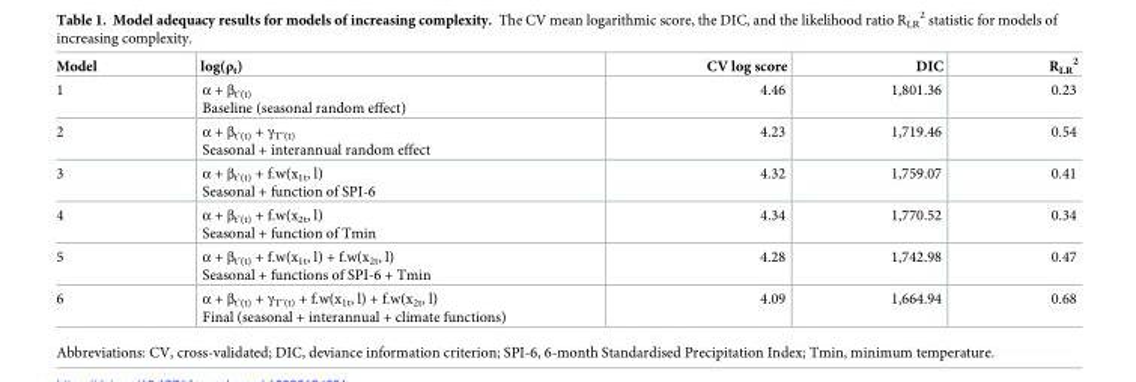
<table><thead><tr><td>Model</td><td>log(ρ<sub>t</sub>)</td><td>CV log score</td><td>DIC</td><td>R<sub>LR</sub> <sup>2</sup></td></tr></thead><tbody><tr><td>1</td><td>α + β<sub>t’(t)</sub> Baseline (seasonal random effect)</td><td>4.46</td><td>1,801.36</td><td>0.23</td></tr><tr><td>2</td><td>α + β<sub>t’(t)</sub> + γ<sub>T’(t)</sub> Seasonal + interannual random effect</td><td>4.23</td><td>1,719.46</td><td>0.54</td></tr><tr><td>3</td><td>α + β<sub>t’(t)</sub> + f.w(x<sub>1t</sub>, l) Seasonal + function of SPI-6</td><td>4.32</td><td>1,759.07</td><td>0.41</td></tr><tr><td>4</td><td>α + β<sub>t’(t)</sub> + f.w(x<sub>2t</sub>, l) Seasonal + function of Tmin</td><td>4.34</td><td>1,770.52</td><td>0.34</td></tr><tr><td>5</td><td>α + β<sub>t’(t)</sub> + f.w(x<sub>1t</sub>, l) + f.w(x<sub>2t</sub>, l) Seasonal + functions of SPI-6 + Tmin</td><td>4.28</td><td>1,742.98</td><td>0.47</td></tr><tr><td>6</td><td>α + β<sub>t’(t)</sub> + γ<sub>T’(t)</sub> + f.w(x<sub>1t</sub>, l) + f.w(x<sub>2t</sub>, l) Final (seasonal + interannual + climate functions)</td><td>4.09</td><td>1,664.94</td><td>0.68</td></tr></tbody></table>